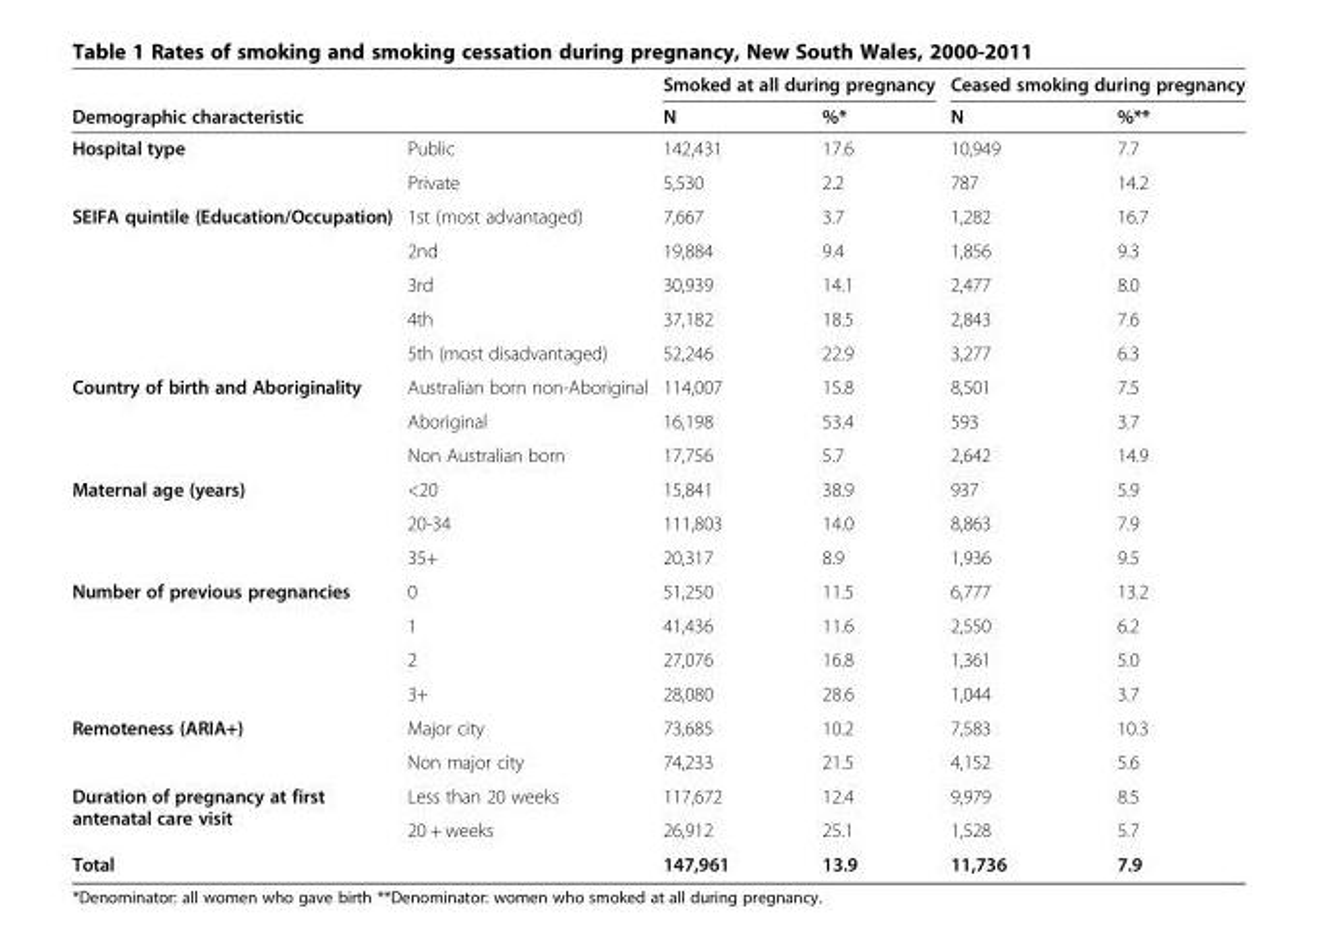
<table><thead><tr><td></td><td></td><td colspan="2">Smoked at all during pregnancy</td><td colspan="2">Ceased smoking during pregnancy</td></tr><tr><td colspan="2">Demographic characteristic</td><td>N</td><td>%*</td><td>N</td><td>%**</td></tr></thead><tbody><tr><td rowspan="2">Hospital type</td><td>Public</td><td>142,431</td><td>17.6</td><td>10,949</td><td>7.7</td></tr><tr><td>Private</td><td>5,530</td><td>2.2</td><td>787</td><td>14.2</td></tr><tr><td rowspan="5">SEIFA quintile (Education/Occupation)</td><td>1st (most advantaged)</td><td>7,667</td><td>3.7</td><td>1,282</td><td>16.7</td></tr><tr><td>2nd</td><td>19,884</td><td>9.4</td><td>1,856</td><td>9.3</td></tr><tr><td>3rd</td><td>30,939</td><td>14.1</td><td>2,477</td><td>8.0</td></tr><tr><td>4th</td><td>37,182</td><td>18.5</td><td>2,843</td><td>7.6</td></tr><tr><td>5th (most disadvantaged)</td><td>52,246</td><td>22.9</td><td>3,277</td><td>6.3</td></tr><tr><td rowspan="3">Country of birth and Aboriginality</td><td>Australian born non-Aboriginal</td><td>114,007</td><td>15.8</td><td>8,501</td><td>7.5</td></tr><tr><td>Aboriginal</td><td>16,198</td><td>53.4</td><td>593</td><td>3.7</td></tr><tr><td>Non Australian born</td><td>17,756</td><td>5.7</td><td>2,642</td><td>14.9</td></tr><tr><td rowspan="3">Maternal age (years)</td><td>&lt;20</td><td>15,841</td><td>38.9</td><td>937</td><td>5.9</td></tr><tr><td>20-34</td><td>111,803</td><td>14.0</td><td>8,863</td><td>7.9</td></tr><tr><td>35+</td><td>20,317</td><td>8.9</td><td>1,936</td><td>9.5</td></tr><tr><td rowspan="4">Number of previous pregnancies</td><td>0</td><td>51,250</td><td>11.5</td><td>6,777</td><td>13.2</td></tr><tr><td>1</td><td>41,436</td><td>11.6</td><td>2,550</td><td>6.2</td></tr><tr><td>2</td><td>27,076</td><td>16.8</td><td>1,361</td><td>5.0</td></tr><tr><td>3+</td><td>28,080</td><td>28.6</td><td>1,044</td><td>3.7</td></tr><tr><td rowspan="2">Remoteness (ARIA+)</td><td>Major city</td><td>73,685</td><td>10.2</td><td>7,583</td><td>10.3</td></tr><tr><td>Non major city</td><td>74,233</td><td>21.5</td><td>4,152</td><td>5.6</td></tr><tr><td rowspan="2">Duration of pregnancy at first antenatal care visit</td><td>Less than 20 weeks</td><td>117,672</td><td>12.4</td><td>9,979</td><td>8.5</td></tr><tr><td>20 + weeks</td><td>26,912</td><td>25.1</td><td>1,528</td><td>5.7</td></tr><tr><td>Total</td><td></td><td>147,961</td><td>13.9</td><td>11,736</td><td>7.9</td></tr></tbody></table>